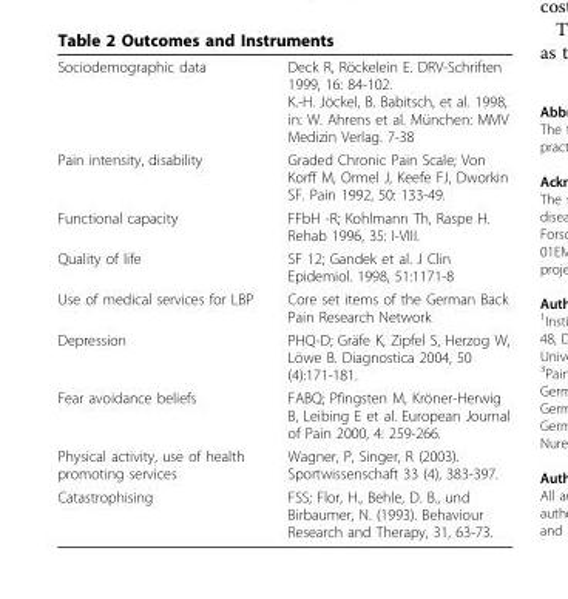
<table><tbody><tr><td>Sociodemographic data</td><td>Deck R, Röckelein E. DRV-Schriften 1999, 16: 84-102. K.-H. Jöckel, B. Babitsch, et al. 1998, in: W. Ahrens et al. München: MMV Medizin Verlag. 7-38</td></tr><tr><td>Pain intensity, disability</td><td>Graded Chronic Pain Scale; Von Korff M, Ormel J, Keefe FJ, Dworkin SF. Pain 1992, 50: 133-49.</td></tr><tr><td>Functional capacity</td><td>FFbH -R; Kohlmann Th, Raspe H. Rehab 1996, 35: I-VIII.</td></tr><tr><td>Quality of life</td><td>SF 12; Gandek et al. J Clin Epidemiol. 1998, 51:1171-8</td></tr><tr><td>Use of medical services for LBP</td><td>Core set items of the German Back Pain Research Network</td></tr><tr><td>Depression</td><td>PHQ-D; Gräfe K, Zipfel S, Herzog W, Löwe B. Diagnostica 2004, 50 (4):171-181.</td></tr><tr><td>Fear avoidance beliefs</td><td>FABQ; Pfingsten M, Kröner-Herwig B, Leibing E et al. European Journal of Pain 2000, 4: 259-266.</td></tr><tr><td>Physical activity, use of health promoting services</td><td>Wagner, P, Singer, R (2003). Sportwissenschaft 33 (4), 383-397.</td></tr><tr><td>Catastrophising</td><td>FSS; Flor, H., Behle, D. B., und Birbaumer, N. (1993). Behaviour Research and Therapy, 31, 63-73.</td></tr></tbody></table>